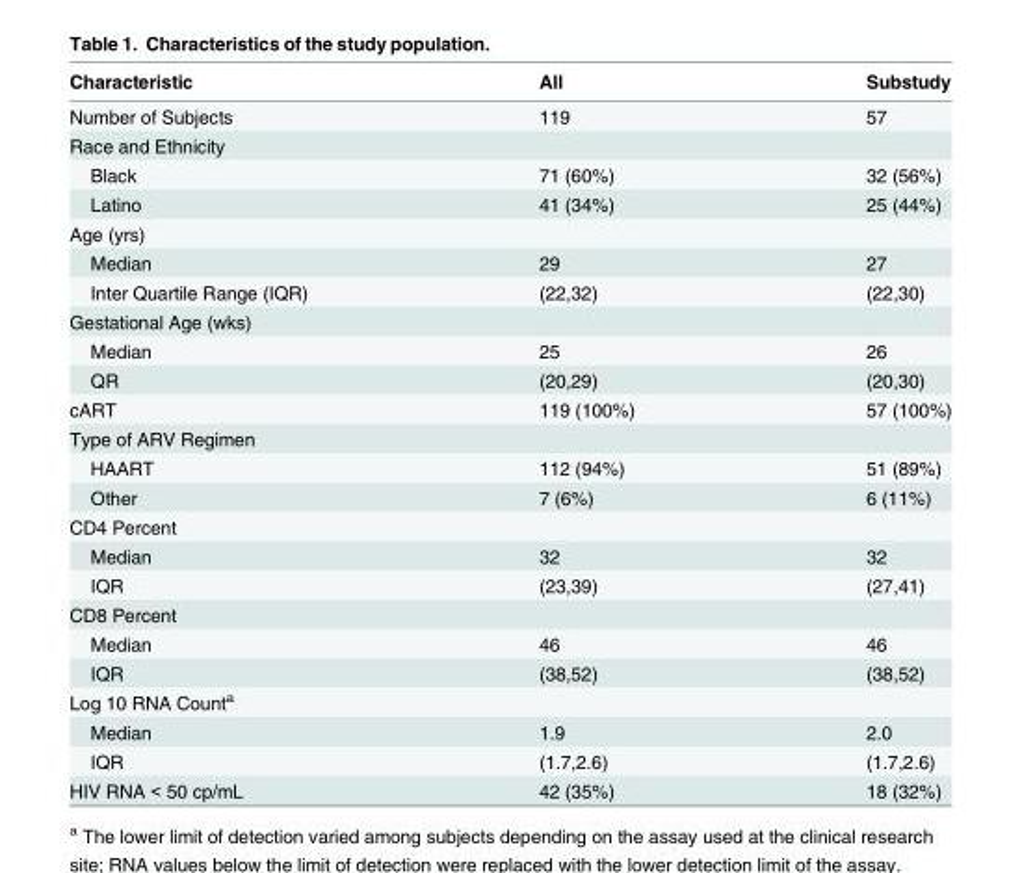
<table><thead><tr><td>Characteristic</td><td>All</td><td>Substudy</td></tr></thead><tbody><tr><td>Number of Subjects</td><td>119</td><td>57</td></tr><tr><td colspan="3">Race and Ethnicity</td></tr><tr><td>Black</td><td>71 (60%)</td><td>32 (56%)</td></tr><tr><td>Latino</td><td>41 (34%)</td><td>25 (44%)</td></tr><tr><td colspan="3">Age (yrs)</td></tr><tr><td>Median</td><td>29</td><td>27</td></tr><tr><td>Inter Quartile Range (IQR)</td><td>(22,32)</td><td>(22,30)</td></tr><tr><td colspan="3">Gestational Age (wks)</td></tr><tr><td>Median</td><td>25</td><td>26</td></tr><tr><td>QR</td><td>(20,29)</td><td>(20,30)</td></tr><tr><td>cART</td><td>119 (100%)</td><td>57 (100%)</td></tr><tr><td colspan="3">Type of ARV Regimen</td></tr><tr><td>HAART</td><td>112 (94%)</td><td>51 (89%)</td></tr><tr><td>Other</td><td>7 (6%)</td><td>6 (11%)</td></tr><tr><td colspan="3">CD4 Percent</td></tr><tr><td>Median</td><td>32</td><td>32</td></tr><tr><td>IQR</td><td>(23,39)</td><td>(27,41)</td></tr><tr><td colspan="3">CD8 Percent</td></tr><tr><td>Median</td><td>46</td><td>46</td></tr><tr><td>IQR</td><td>(38,52)</td><td>(38,52)</td></tr><tr><td colspan="3">Log 10 RNA Count<sup>a</sup></td></tr><tr><td>Median</td><td>1.9</td><td>2.0</td></tr><tr><td>IQR</td><td>(1.7,2.6)</td><td>(1.7,2.6)</td></tr><tr><td>HIV RNA &lt; 50 cp/mL</td><td>42 (35%)</td><td>18 (32%)</td></tr></tbody></table>